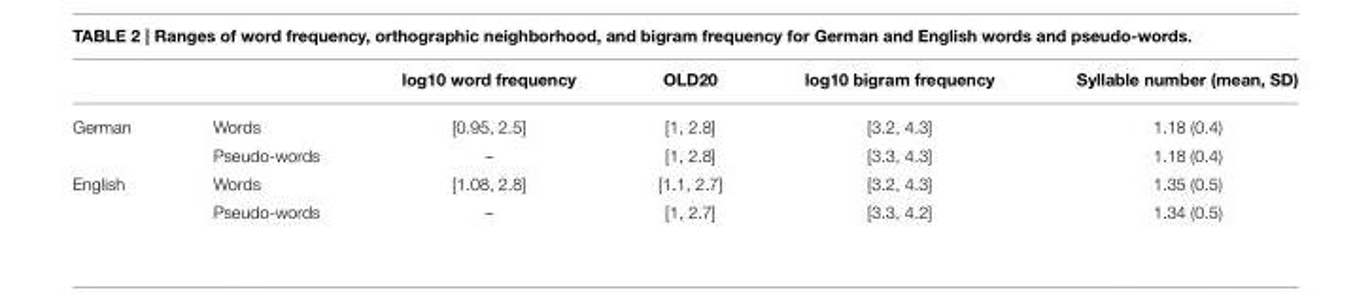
<table><thead><tr><td></td><td></td><td>log10 word frequency</td><td>OLD20</td><td>log10 bigram frequency</td><td>Syllable number (mean, SD)</td></tr></thead><tbody><tr><td rowspan="2">German</td><td>Words</td><td>[0.95, 2.5]</td><td>[1, 2.8]</td><td>[3.2, 4.3]</td><td>1.18 (0.4)</td></tr><tr><td>Pseudo-words</td><td>–</td><td>[1, 2.8]</td><td>[3.3, 4.3]</td><td>1.18 (0.4)</td></tr><tr><td rowspan="2">English</td><td>Words</td><td>[1.08, 2.8]</td><td>[1.1, 2.7]</td><td>[3.2, 4.3]</td><td>1.35 (0.5)</td></tr><tr><td>Pseudo-words</td><td>–</td><td>[1, 2.7]</td><td>[3.3, 4.2]</td><td>1.34 (0.5)</td></tr></tbody></table>